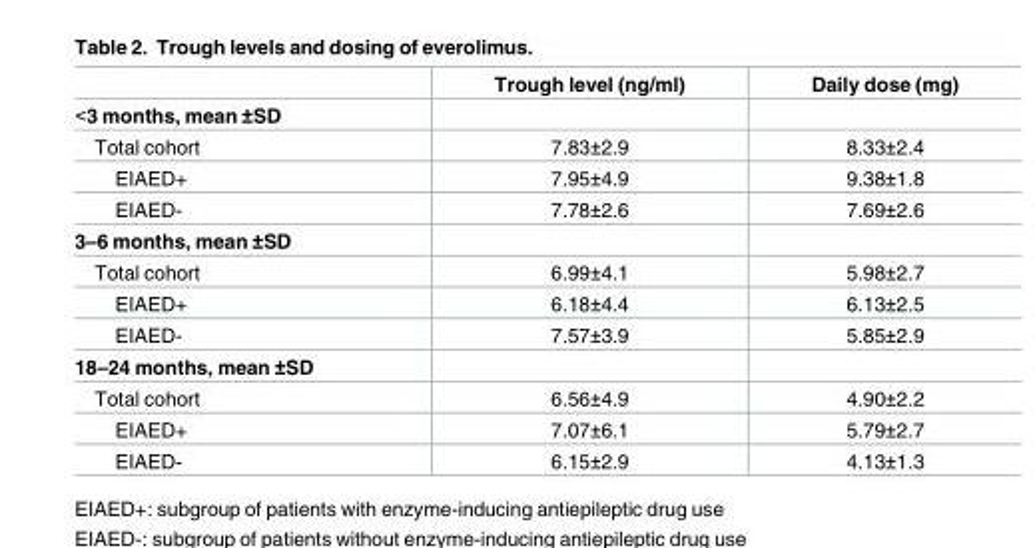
<table><thead><tr><td></td><td>Trough level (ng/ml)</td><td>Daily dose (mg)</td></tr></thead><tbody><tr><td colspan="3">&lt;3 months, mean ±SD</td></tr><tr><td>Total cohort</td><td>7.83±2.9</td><td>8.33±2.4</td></tr><tr><td>EIAED+</td><td>7.95±4.9</td><td>9.38±1.8</td></tr><tr><td>EIAED-</td><td>7.78±2.6</td><td>7.69±2.6</td></tr><tr><td colspan="3">3–6 months, mean ±SD</td></tr><tr><td>Total cohort</td><td>6.99±4.1</td><td>5.98±2.7</td></tr><tr><td>EIAED+</td><td>6.18±4.4</td><td>6.13±2.5</td></tr><tr><td>EIAED-</td><td>7.57±3.9</td><td>5.85±2.9</td></tr><tr><td colspan="3">18–24 months, mean ±SD</td></tr><tr><td>Total cohort</td><td>6.56±4.9</td><td>4.90±2.2</td></tr><tr><td>EIAED+</td><td>7.07±6.1</td><td>5.79±2.7</td></tr><tr><td>EIAED-</td><td>6.15±2.9</td><td>4.13±1.3</td></tr></tbody></table>